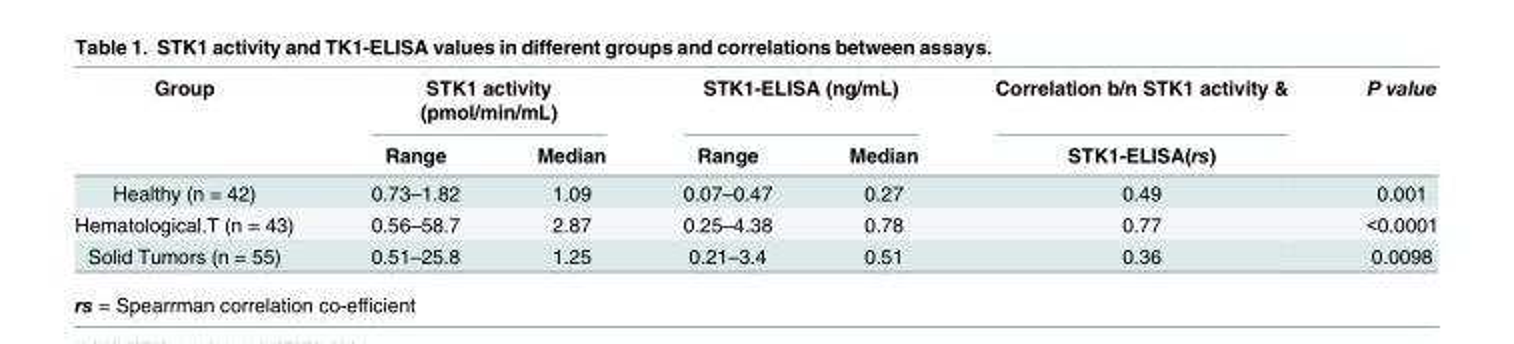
<table><thead><tr><td rowspan="2">Group</td><td colspan="2">STK1 activity (pmol/min/mL)</td><td colspan="2">STK1-ELISA (ng/mL)</td><td rowspan="2">Correlation b/n STK1 activity &amp; STK1-ELISA(rs)</td><td rowspan="2">P value</td></tr><tr><td>Range</td><td>Median</td><td>Range</td><td>Median</td></tr></thead><tbody><tr><td>Healthy (n = 42)</td><td>0.73–1.82</td><td>1.09</td><td>0.07–0.47</td><td>0.27</td><td>0.49</td><td>0.001</td></tr><tr><td>Hematological.T (n = 43)</td><td>0.56–58.7</td><td>2.87</td><td>0.25–4.38</td><td>0.78</td><td>0.77</td><td>&lt;0.0001</td></tr><tr><td>Solid Tumors (n = 55)</td><td>0.51–25.8</td><td>1.25</td><td>0.21–3.4</td><td>0.51</td><td>0.36</td><td>0.0098</td></tr></tbody></table>